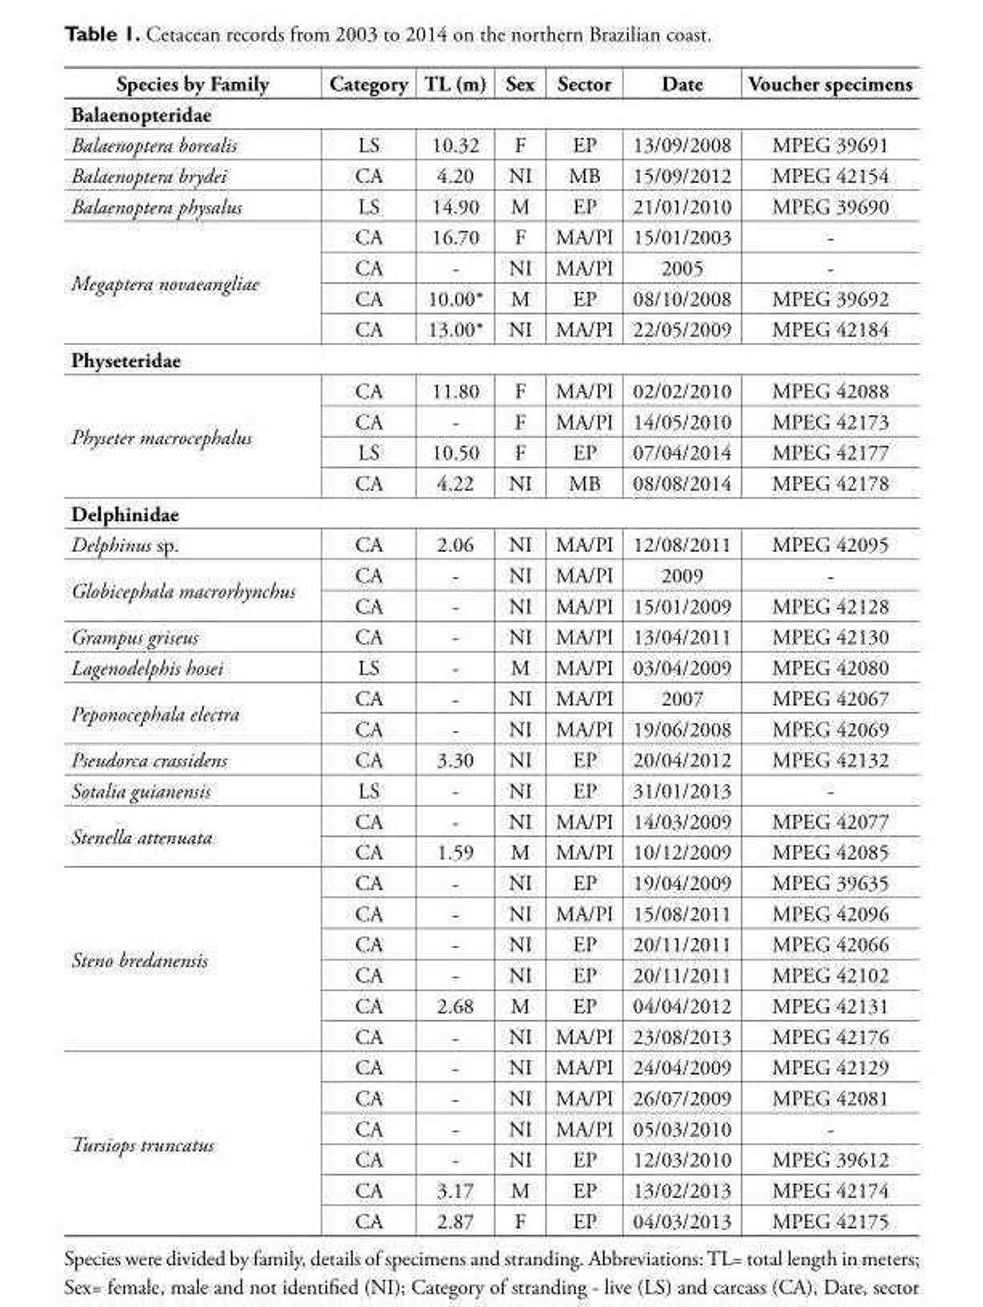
<table><thead><tr><td>Species by Family</td><td>Category</td><td>TL (m)</td><td>Sex</td><td>Sector</td><td>Date</td><td>Voucher specimens</td></tr></thead><tbody><tr><td colspan="7">Balaenopteridae</td></tr><tr><td>Balaenoptera borealis</td><td>LS</td><td>10.32</td><td>F</td><td>EP</td><td>13/09/2008</td><td>MPEG 39691</td></tr><tr><td>Balaenoptera brydei</td><td>CA</td><td>4.20</td><td>NI</td><td>MB</td><td>15/09/2012</td><td>MPEG 42154</td></tr><tr><td>Balaenoptera physalus</td><td>LS</td><td>14.90</td><td>M</td><td>EP</td><td>21/01/2010</td><td>MPEG 39690</td></tr><tr><td rowspan="4">Megaptera novaeangliae</td><td>CA</td><td>16.70</td><td>F</td><td>MA/PI</td><td>15/01/2003</td><td>-</td></tr><tr><td>CA</td><td>-</td><td>NI</td><td>MA/PI</td><td>2005</td><td>-</td></tr><tr><td>CA</td><td>10.00*</td><td>M</td><td>EP</td><td>08/10/2008</td><td>MPEG 39692</td></tr><tr><td>CA</td><td>13.00*</td><td>NI</td><td>MA/PI</td><td>22/05/2009</td><td>MPEG 42184</td></tr><tr><td colspan="7">Physeteridae</td></tr><tr><td rowspan="4">Physeter macrocephalus</td><td>CA</td><td>11.80</td><td>F</td><td>MA/PI</td><td>02/02/2010</td><td>MPEG 42088</td></tr><tr><td>CA</td><td>-</td><td>F</td><td>MA/PI</td><td>14/05/2010</td><td>MPEG 42173</td></tr><tr><td>LS</td><td>10.50</td><td>F</td><td>EP</td><td>07/04/2014</td><td>MPEG 42177</td></tr><tr><td>CA</td><td>4.22</td><td>NI</td><td>MB</td><td>08/08/2014</td><td>MPEG 42178</td></tr><tr><td colspan="7">Delphinidae</td></tr><tr><td>Delphinus sp.</td><td>CA</td><td>2.06</td><td>NI</td><td>MA/PI</td><td>12/08/2011</td><td>MPEG 42095</td></tr><tr><td rowspan="2">Globicephala macrorhynchus</td><td>CA</td><td>-</td><td>NI</td><td>MA/PI</td><td>2009</td><td>-</td></tr><tr><td>CA</td><td>-</td><td>NI</td><td>MA/PI</td><td>15/01/2009</td><td>MPEG 42128</td></tr><tr><td>Grampus griseus</td><td>CA</td><td>-</td><td>NI</td><td>MA/PI</td><td>13/04/2011</td><td>MPEG 42130</td></tr><tr><td>Lagenodelphis hosei</td><td>LS</td><td>-</td><td>M</td><td>MA/PI</td><td>03/04/2009</td><td>MPEG 42080</td></tr><tr><td rowspan="2">Peponocephala electra</td><td>CA</td><td>-</td><td>NI</td><td>MA/PI</td><td>2007</td><td>MPEG 42067</td></tr><tr><td>CA</td><td>-</td><td>NI</td><td>MA/PI</td><td>19/06/2008</td><td>MPEG 42069</td></tr><tr><td>Pseudorca crassidens</td><td>CA</td><td>3.30</td><td>NI</td><td>EP</td><td>20/04/2012</td><td>MPEG 42132</td></tr><tr><td>Sotalia guianensis</td><td>LS</td><td>-</td><td>NI</td><td>EP</td><td>31/01/2013</td><td>-</td></tr><tr><td rowspan="2">Stenella attenuata</td><td>CA</td><td>-</td><td>NI</td><td>MA/PI</td><td>14/03/2009</td><td>MPEG 42077</td></tr><tr><td>CA</td><td>1.59</td><td>M</td><td>MA/PI</td><td>10/12/2009</td><td>MPEG 42085</td></tr><tr><td rowspan="6">Steno bredanensis</td><td>CA</td><td>-</td><td>NI</td><td>EP</td><td>19/04/2009</td><td>MPEG 39635</td></tr><tr><td>CA</td><td>-</td><td>NI</td><td>MA/PI</td><td>15/08/2011</td><td>MPEG 42096</td></tr><tr><td>CA</td><td>-</td><td>NI</td><td>EP</td><td>20/11/2011</td><td>MPEG 42066</td></tr><tr><td>CA</td><td>-</td><td>NI</td><td>EP</td><td>20/11/2011</td><td>MPEG 42102</td></tr><tr><td>CA</td><td>2.68</td><td>M</td><td>EP</td><td>04/04/2012</td><td>MPEG 42131</td></tr><tr><td>CA</td><td>-</td><td>NI</td><td>MA/PI</td><td>23/08/2013</td><td>MPEG 42176</td></tr><tr><td rowspan="6">Tursiops truncatus</td><td>CA</td><td>-</td><td>NI</td><td>MA/PI</td><td>24/04/2009</td><td>MPEG 42129</td></tr><tr><td>CA</td><td>-</td><td>NI</td><td>MA/PI</td><td>26/07/2009</td><td>MPEG 42081</td></tr><tr><td>CA</td><td>-</td><td>NI</td><td>MA/PI</td><td>05/03/2010</td><td>-</td></tr><tr><td>CA</td><td>-</td><td>NI</td><td>EP</td><td>12/03/2010</td><td>MPEG 39612</td></tr><tr><td>CA</td><td>3.17</td><td>M</td><td>EP</td><td>13/02/2013</td><td>MPEG 42174</td></tr><tr><td>CA</td><td>2.87</td><td>F</td><td>EP</td><td>04/03/2013</td><td>MPEG 42175</td></tr></tbody></table>